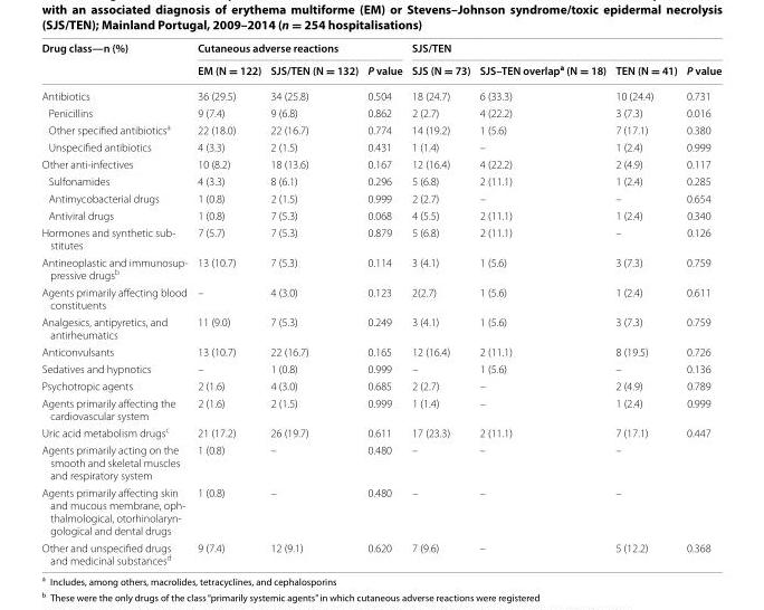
<table><thead><tr><td rowspan="2">Drug class—n (%)</td><td colspan="3">Cutaneous adverse reactions</td><td colspan="4">SJS/TEN</td></tr><tr><td>EM (N = 122)</td><td>SJS/TEN (N = 132)</td><td>P value</td><td>SJS (N = 73)</td><td>SJS–TEN overlap<sup>a</sup> (N = 18)</td><td>TEN (N = 41)</td><td>P value</td></tr></thead><tbody><tr><td>Antibiotics</td><td>36 (29.5)</td><td>34 (25.8)</td><td>0.504</td><td>18 (24.7)</td><td>6 (33.3)</td><td>10 (24.4)</td><td>0.731</td></tr><tr><td>Penicillins</td><td>9 (7.4)</td><td>9 (6.8)</td><td>0.862</td><td>2 (2.7)</td><td>4 (22.2)</td><td>3 (7.3)</td><td>0.016</td></tr><tr><td>Other specified antibiotics<sup>a</sup></td><td>22 (18.0)</td><td>22 (16.7)</td><td>0.774</td><td>14 (19.2)</td><td>1 (5.6)</td><td>7 (17.1)</td><td>0.380</td></tr><tr><td>Unspecified antibiotics</td><td>4 (3.3)</td><td>2 (1.5)</td><td>0.431</td><td>1 (1.4)</td><td>–</td><td>1 (2.4)</td><td>0.999</td></tr><tr><td>Other anti‑infectives</td><td>10 (8.2)</td><td>18 (13.6)</td><td>0.167</td><td>12 (16.4)</td><td>4 (22.2)</td><td>2 (4.9)</td><td>0.117</td></tr><tr><td>Sulfonamides</td><td>4 (3.3)</td><td>8 (6.1)</td><td>0.296</td><td>5 (6.8)</td><td>2 (11.1)</td><td>1 (2.4)</td><td>0.285</td></tr><tr><td>Antimycobacterial drugs</td><td>1 (0.8)</td><td>2 (1.5)</td><td>0.999</td><td>2 (2.7)</td><td>–</td><td>–</td><td>0.654</td></tr><tr><td>Antiviral drugs</td><td>1 (0.8)</td><td>7 (5.3)</td><td>0.068</td><td>4 (5.5)</td><td>2 (11.1)</td><td>1 (2.4)</td><td>0.340</td></tr><tr><td>Hormones and synthetic sub‑ stitutes</td><td>7 (5.7)</td><td>7 (5.3)</td><td>0.879</td><td>5 (6.8)</td><td>2 (11.1)</td><td>–</td><td>0.126</td></tr><tr><td>Antineoplastic and immunosup‑ pressive drugsb</td><td>13 (10.7)</td><td>7 (5.3)</td><td>0.114</td><td>3 (4.1)</td><td>1 (5.6)</td><td>3 (7.3)</td><td>0.759</td></tr><tr><td>Agents primarily affecting blood constituents</td><td>–</td><td>4 (3.0)</td><td>0.123</td><td>2(2.7)</td><td>1 (5.6)</td><td>1 (2.4)</td><td>0.611</td></tr><tr><td>Analgesics, antipyretics, and antirheumatics</td><td>11 (9.0)</td><td>7 (5.3)</td><td>0.249</td><td>3 (4.1)</td><td>1 (5.6)</td><td>3 (7.3)</td><td>0.759</td></tr><tr><td>Anticonvulsants</td><td>13 (10.7)</td><td>22 (16.7)</td><td>0.165</td><td>12 (16.4)</td><td>2 (11.1)</td><td>8 (19.5)</td><td>0.726</td></tr><tr><td>Sedatives and hypnotics</td><td>–</td><td>1 (0.8)</td><td>0.999</td><td>–</td><td>1 (5.6)</td><td>–</td><td>0.136</td></tr><tr><td>Psychotropic agents</td><td>2 (1.6)</td><td>4 (3.0)</td><td>0.685</td><td>2 (2.7)</td><td>–</td><td>2 (4.9)</td><td>0.789</td></tr><tr><td>Agents primarily affecting the cardiovascular system</td><td>2 (1.6)</td><td>2 (1.5)</td><td>0.999</td><td>1 (1.4)</td><td>–</td><td>1 (2.4)</td><td>0.999</td></tr><tr><td>Uric acid metabolism drugs<sup>c</sup></td><td>21 (17.2)</td><td>26 (19.7)</td><td>0.611</td><td>17 (23.3)</td><td>2 (11.1)</td><td>7 (17.1)</td><td>0.447</td></tr><tr><td>Agents primarily acting on the smooth and skeletal muscles and respiratory system</td><td>1 (0.8)</td><td>–</td><td>0.480</td><td>–</td><td>–</td><td>–</td><td></td></tr><tr><td>Agents primarily affecting skin and mucous membrane, oph‑ thalmological, otorhinolaryn‑ gological and dental drugs</td><td>1 (0.8)</td><td>–</td><td>0.480</td><td>–</td><td>–</td><td>–</td><td></td></tr><tr><td>Other and unspecified drugs and medicinal substances<sup>d</sup></td><td>9 (7.4)</td><td>12 (9.1)</td><td>0.620</td><td>7 (9.6)</td><td>–</td><td>5 (12.2)</td><td>0.368</td></tr></tbody></table>